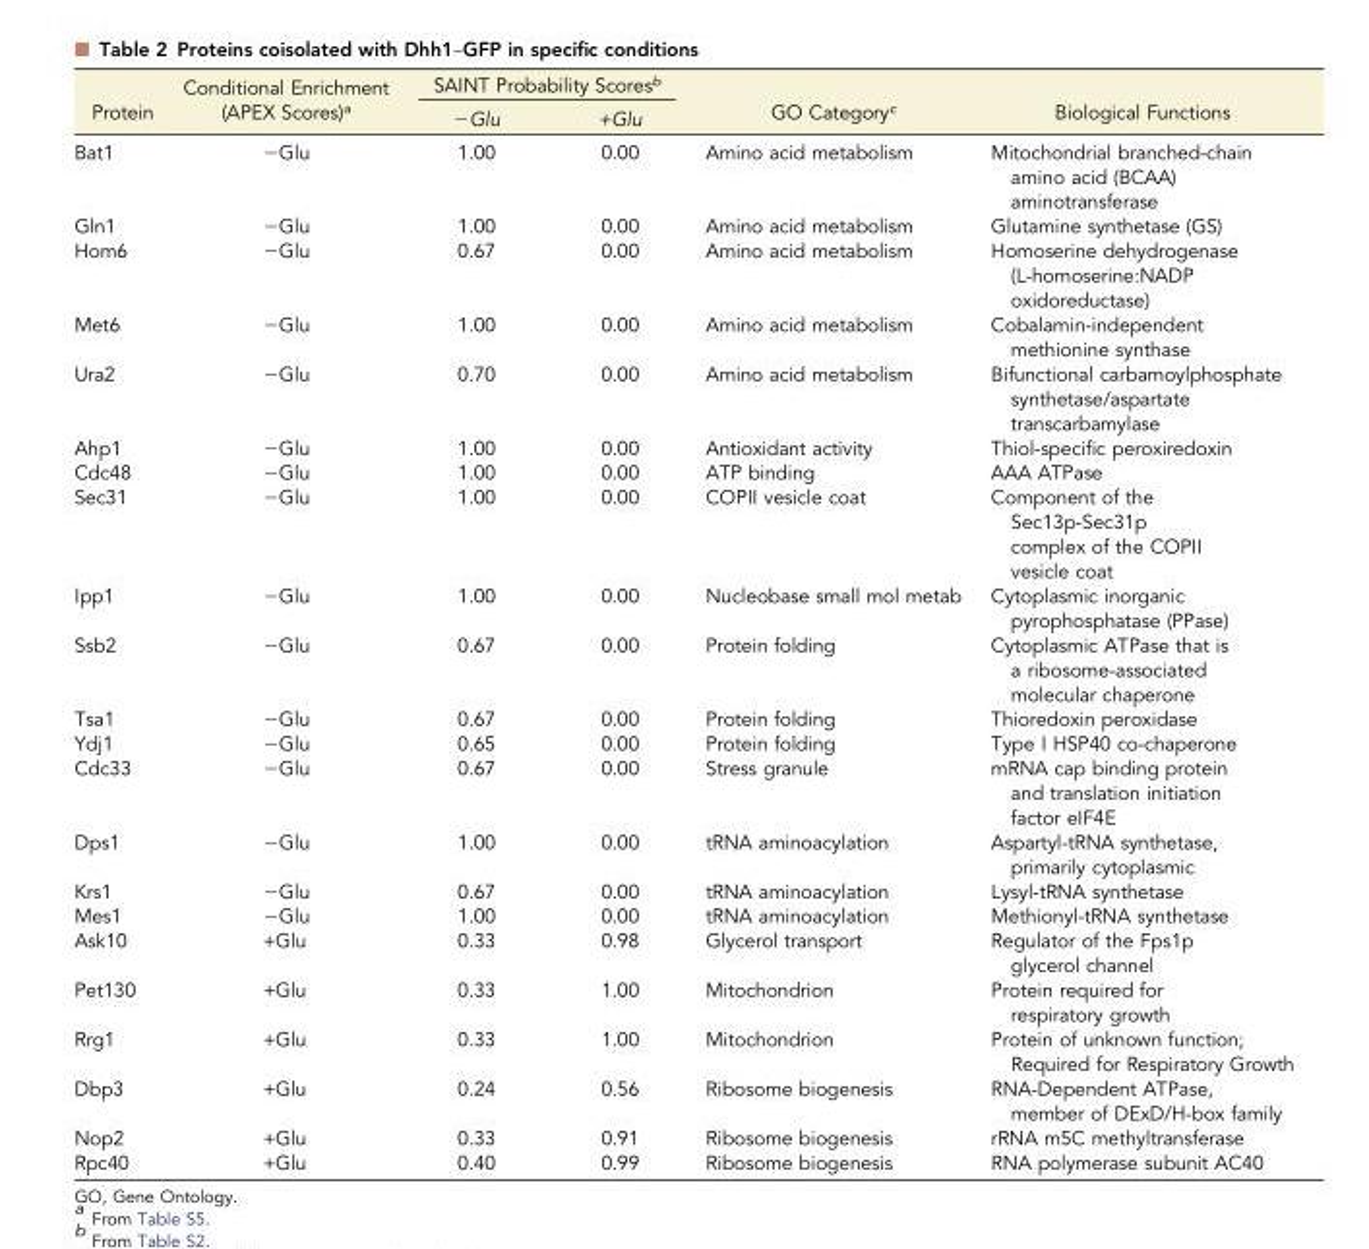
<table><thead><tr><td rowspan="2">Protein</td><td rowspan="2">Conditional Enrichment (APEX Scores)<sup>a</sup></td><td colspan="2">SAINT Probability Scores<sup>b</sup></td><td rowspan="2">GO Category<sup>c</sup></td><td rowspan="2">Biological Functions</td></tr><tr><td>−Glu</td><td>+Glu</td></tr></thead><tbody><tr><td>Bat1</td><td>−Glu</td><td>1.00</td><td>0.00</td><td>Amino acid metabolism</td><td>Mitochondrial branched-chain amino acid (BCAA) aminotransferase</td></tr><tr><td>Gln1</td><td>−Glu</td><td>1.00</td><td>0.00</td><td>Amino acid metabolism</td><td>Glutamine synthetase (GS)</td></tr><tr><td>Hom6</td><td>−Glu</td><td>0.67</td><td>0.00</td><td>Amino acid metabolism</td><td>Homoserine dehydrogenase (L-homoserine:NADP oxidoreductase)</td></tr><tr><td>Met6</td><td>−Glu</td><td>1.00</td><td>0.00</td><td>Amino acid metabolism</td><td>Cobalamin-independent methionine synthase</td></tr><tr><td>Ura2</td><td>−Glu</td><td>0.70</td><td>0.00</td><td>Amino acid metabolism</td><td>Bifunctional carbamoylphosphate synthetase/aspartate transcarbamylase</td></tr><tr><td>Ahp1</td><td>−Glu</td><td>1.00</td><td>0.00</td><td>Antioxidant activity</td><td>Thiol-specific peroxiredoxin</td></tr><tr><td>Cdc48</td><td>−Glu</td><td>1.00</td><td>0.00</td><td>ATP binding</td><td>AAA ATPase</td></tr><tr><td>Sec31</td><td>−Glu</td><td>1.00</td><td>0.00</td><td>COPII vesicle coat</td><td>Component of the Sec13p-Sec31p complex of the COPII vesicle coat</td></tr><tr><td>Ipp1</td><td>−Glu</td><td>1.00</td><td>0.00</td><td>Nucleobase small mol metab</td><td>Cytoplasmic inorganic pyrophosphatase (PPase)</td></tr><tr><td>Ssb2</td><td>−Glu</td><td>0.67</td><td>0.00</td><td>Protein folding</td><td>Cytoplasmic ATPase that is a ribosome-associated molecular chaperone</td></tr><tr><td>Tsa1</td><td>−Glu</td><td>0.67</td><td>0.00</td><td>Protein folding</td><td>Thioredoxin peroxidase</td></tr><tr><td>Ydj1</td><td>−Glu</td><td>0.65</td><td>0.00</td><td>Protein folding</td><td>Type I HSP40 co-chaperone</td></tr><tr><td>Cdc33</td><td>−Glu</td><td>0.67</td><td>0.00</td><td>Stress granule</td><td>mRNA cap binding protein and translation initiation factor eIF4E</td></tr><tr><td>Dps1</td><td>−Glu</td><td>1.00</td><td>0.00</td><td>tRNA aminoacylation</td><td>Aspartyl-tRNA synthetase, primarily cytoplasmic</td></tr><tr><td>Krs1</td><td>−Glu</td><td>0.67</td><td>0.00</td><td>tRNA aminoacylation</td><td>Lysyl-tRNA synthetase</td></tr><tr><td>Mes1</td><td>−Glu</td><td>1.00</td><td>0.00</td><td>tRNA aminoacylation</td><td>Methionyl-tRNA synthetase</td></tr><tr><td>Ask10</td><td>+Glu</td><td>0.33</td><td>0.98</td><td>Glycerol transport</td><td>Regulator of the Fps1p glycerol channel</td></tr><tr><td>Pet130</td><td>+Glu</td><td>0.33</td><td>1.00</td><td>Mitochondrion</td><td>Protein required for respiratory growth</td></tr><tr><td>Rrg1</td><td>+Glu</td><td>0.33</td><td>1.00</td><td>Mitochondrion</td><td>Protein of unknown function; Required for Respiratory Growth</td></tr><tr><td>Dbp3</td><td>+Glu</td><td>0.24</td><td>0.56</td><td>Ribosome biogenesis</td><td>RNA-Dependent ATPase, member of DExD/H-box family</td></tr><tr><td>Nop2</td><td>+Glu</td><td>0.33</td><td>0.91</td><td>Ribosome biogenesis</td><td>rRNA m5C methyltransferase</td></tr><tr><td>Rpc40</td><td>+Glu</td><td>0.40</td><td>0.99</td><td>Ribosome biogenesis</td><td>RNA polymerase subunit AC40</td></tr></tbody></table>